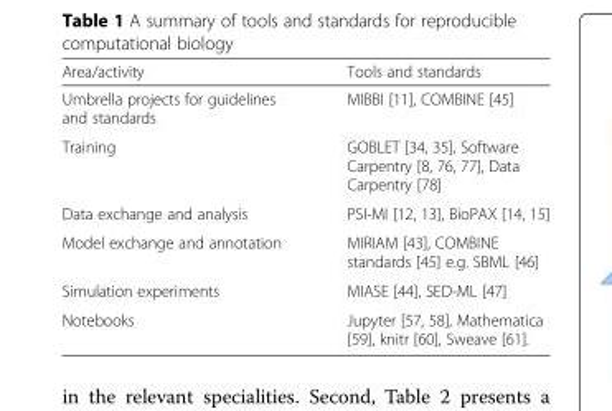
<table><thead><tr><td>Area/activity</td><td>Tools and standards</td></tr></thead><tbody><tr><td>Umbrella projects for guidelines and standards</td><td>MIBBI [11], COMBINE [45]</td></tr><tr><td>Training</td><td>GOBLET [34, 35], Software Carpentry [8, 76, 77], Data Carpentry [78]</td></tr><tr><td>Data exchange and analysis</td><td>PSI-MI [12, 13], BioPAX [14, 15]</td></tr><tr><td>Model exchange and annotation</td><td>MIRIAM [43], COMBINE standards [45] e.g. SBML [46]</td></tr><tr><td>Simulation experiments</td><td>MIASE [44], SED-ML [47]</td></tr><tr><td>Notebooks</td><td>Jupyter [57, 58], Mathematica [59], knitr [60], Sweave [61].</td></tr></tbody></table>